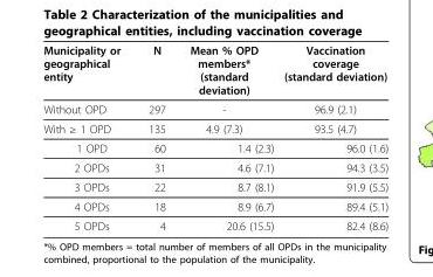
<table><thead><tr><td>Municipality or geographical entity</td><td>N</td><td>Mean % OPD members* (standard deviation)</td><td>Vaccination coverage (standard deviation)</td></tr></thead><tbody><tr><td>Without OPD</td><td>297</td><td>-</td><td>96.9 (2.1)</td></tr><tr><td>With ≥ 1 OPD</td><td>135</td><td>4.9 (7.3)</td><td>93.5 (4.7)</td></tr><tr><td>1 OPD</td><td>60</td><td>1.4 (2.3)</td><td>96.0 (1.6)</td></tr><tr><td>2 OPDs</td><td>31</td><td>4.6 (7.1)</td><td>94.3 (3.5)</td></tr><tr><td>3 OPDs</td><td>22</td><td>8.7 (8.1)</td><td>91.9 (5.5)</td></tr><tr><td>4 OPDs</td><td>18</td><td>8.9 (6.7)</td><td>89.4 (5.1)</td></tr><tr><td>5 OPDs</td><td>4</td><td>20.6 (15.5)</td><td>82.4 (8.6)</td></tr></tbody></table>